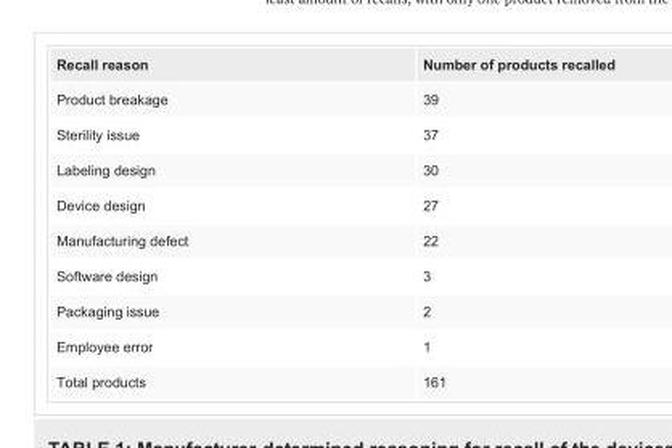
<table><tbody><tr><td>Recall reason</td><td>Number of products recalled</td></tr><tr><td>Product breakage</td><td>39</td></tr><tr><td>Sterility issue</td><td>37</td></tr><tr><td>Labeling design</td><td>30</td></tr><tr><td>Device design</td><td>27</td></tr><tr><td>Manufacturing defect</td><td>22</td></tr><tr><td>Software design</td><td>3</td></tr><tr><td>Packaging issue</td><td>2</td></tr><tr><td>Employee error</td><td>1</td></tr><tr><td>Total products</td><td>161</td></tr></tbody></table>